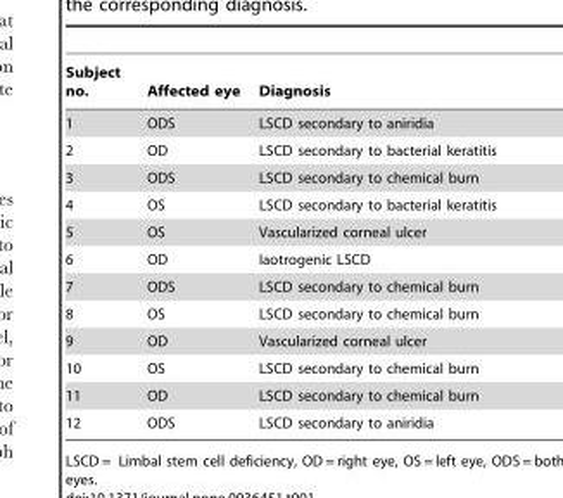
<table><thead><tr><td>Subject no.</td><td>Affected eye</td><td>Diagnosis</td></tr></thead><tbody><tr><td>1</td><td>ODS</td><td>LSCD secondary to aniridia</td></tr><tr><td>2</td><td>OD</td><td>LSCD secondary to bacterial keratitis</td></tr><tr><td>3</td><td>ODS</td><td>LSCD secondary to chemical burn</td></tr><tr><td>4</td><td>OS</td><td>LSCD secondary to bacterial keratitis</td></tr><tr><td>5</td><td>OS</td><td>Vascularized corneal ulcer</td></tr><tr><td>6</td><td>OD</td><td>Iaotrogenic LSCD</td></tr><tr><td>7</td><td>ODS</td><td>LSCD secondary to chemical burn</td></tr><tr><td>8</td><td>OS</td><td>LSCD secondary to chemical burn</td></tr><tr><td>9</td><td>OD</td><td>Vascularized corneal ulcer</td></tr><tr><td>10</td><td>OS</td><td>LSCD secondary to chemical burn</td></tr><tr><td>11</td><td>OD</td><td>LSCD secondary to chemical burn</td></tr><tr><td>12</td><td>ODS</td><td>LSCD secondary to aniridia</td></tr></tbody></table>